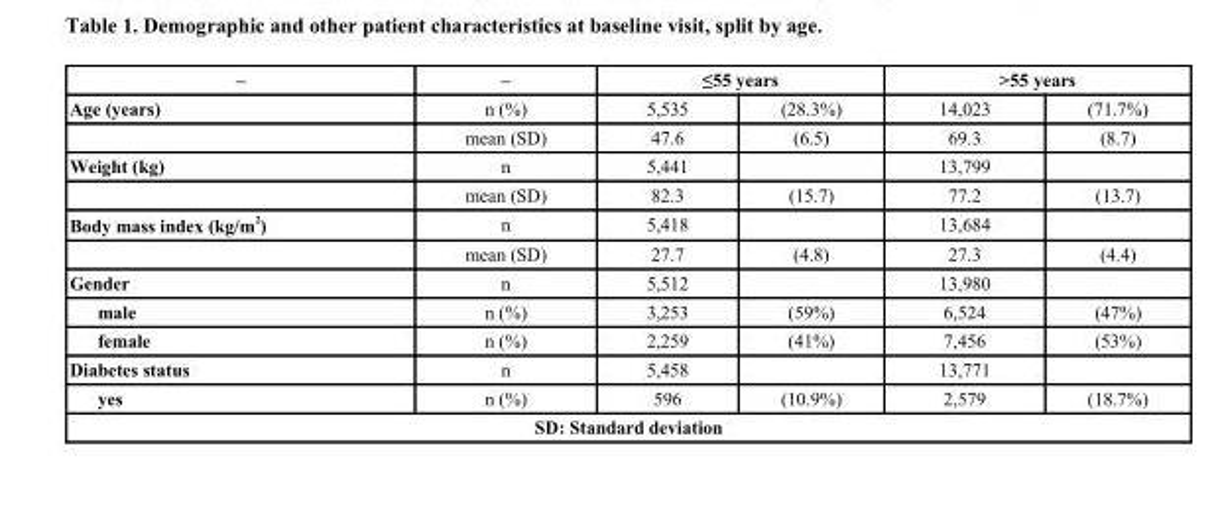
<table><thead><tr><td rowspan="2">– Age (years)</td><td rowspan="2">– n (%)</td><td colspan="2">≤55 years</td><td colspan="2">&gt;55 years</td></tr><tr><td>5,535</td><td>(28.3%)</td><td>14,023</td><td>(71.7%)</td></tr></thead><tbody><tr><td></td><td>mean (SD)</td><td>47.6</td><td>(6.5)</td><td>69.3</td><td>(8.7)</td></tr><tr><td rowspan="2">Weight (kg)</td><td>n</td><td>5,441</td><td></td><td>13,799</td><td></td></tr><tr><td>mean (SD)</td><td>82.3</td><td>(15.7)</td><td>77.2</td><td>(13.7)</td></tr><tr><td rowspan="2">Body mass index (kg/m <sup>2</sup>)</td><td>n</td><td>5,418</td><td></td><td>13,684</td><td></td></tr><tr><td>mean (SD)</td><td>27.7</td><td>(4.8)</td><td>27.3</td><td>(4.4)</td></tr><tr><td>Gender</td><td>n</td><td>5,512</td><td></td><td>13,980</td><td></td></tr><tr><td>male</td><td>n (%)</td><td>3,253</td><td>(59%)</td><td>6,524</td><td>(47%)</td></tr><tr><td>female</td><td>n (%)</td><td>2,259</td><td>(41%)</td><td>7,456</td><td>(53%)</td></tr><tr><td>Diabetes status</td><td>n</td><td>5,458</td><td></td><td>13,771</td><td></td></tr><tr><td>yes</td><td>n (%)</td><td>596</td><td>(10.9%)</td><td>2,579</td><td>(18.7%)</td></tr><tr><td colspan="6">SD: Standard deviation</td></tr></tbody></table>